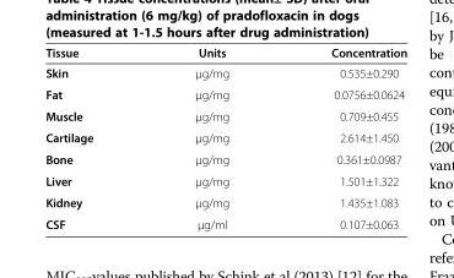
<table><thead><tr><td>Tissue</td><td>Units</td><td>Concentration</td></tr></thead><tbody><tr><td>Skin</td><td>μg/mg</td><td>0.535±0.290</td></tr><tr><td>Fat</td><td>μg/mg</td><td>0.0756±0.0624</td></tr><tr><td>Muscle</td><td>μg/mg</td><td>0.709±0.455</td></tr><tr><td>Cartilage</td><td>μg/mg</td><td>2.614±1.450</td></tr><tr><td>Bone</td><td>μg/mg</td><td>0.361±0.0987</td></tr><tr><td>Liver</td><td>μg/mg</td><td>1.501±1.322</td></tr><tr><td>Kidney</td><td>μg/mg</td><td>1.435±1.083</td></tr><tr><td>CSF</td><td>μg/ml</td><td>0.107±0.063</td></tr></tbody></table>